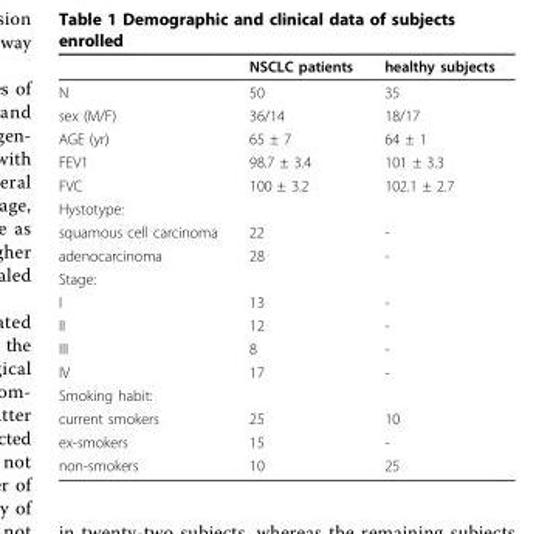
<table><thead><tr><td></td><td>NSCLC patients</td><td>healthy subjects</td></tr></thead><tbody><tr><td>N</td><td>50</td><td>35</td></tr><tr><td>sex (M/F)</td><td>36/14</td><td>18/17</td></tr><tr><td>AGE (yr)</td><td>65 ± 7</td><td>64 ± 1</td></tr><tr><td>FEV1</td><td>98.7 ± 3.4</td><td>101 ± 3.3</td></tr><tr><td>FVC</td><td>100 ± 3.2</td><td>102.1 ± 2.7</td></tr><tr><td colspan="3">Hystotype:</td></tr><tr><td>squamous cell carcinoma</td><td>22</td><td>-</td></tr><tr><td>adenocarcinoma</td><td>28</td><td>-</td></tr><tr><td colspan="3">Stage:</td></tr><tr><td>I</td><td>13</td><td>-</td></tr><tr><td>II</td><td>12</td><td>-</td></tr><tr><td>III</td><td>8</td><td>-</td></tr><tr><td>IV</td><td>17</td><td>-</td></tr><tr><td colspan="3">Smoking habit:</td></tr><tr><td>current smokers</td><td>25</td><td>10</td></tr><tr><td>ex-smokers</td><td>15</td><td>-</td></tr><tr><td>non-smokers</td><td>10</td><td>25</td></tr></tbody></table>